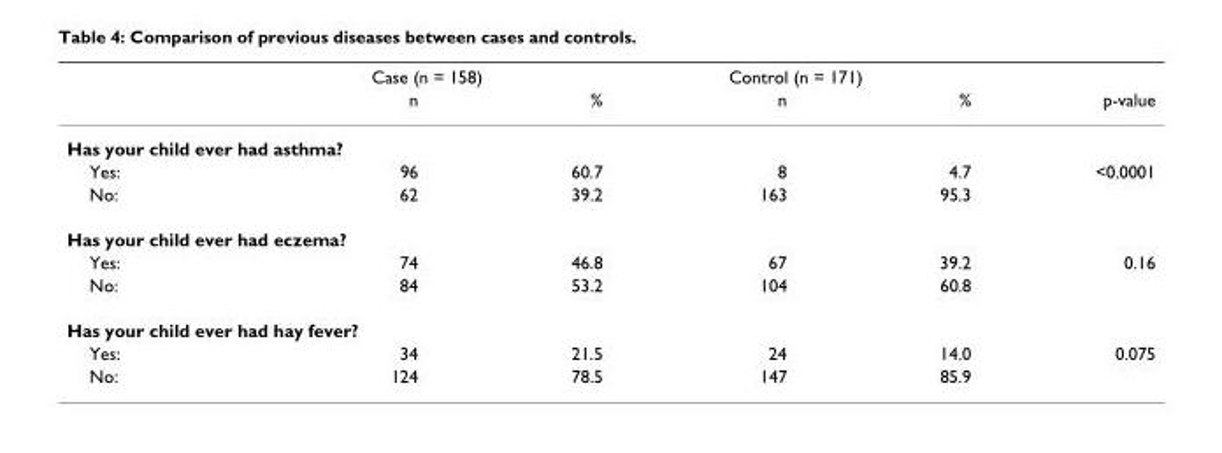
<table><thead><tr><td rowspan="2"></td><td colspan="2">Case (n = 158)</td><td colspan="2">Control (n = 171)</td><td rowspan="2">p-value</td></tr><tr><td>n</td><td>%</td><td>n</td><td>%</td></tr></thead><tbody><tr><td colspan="6">Has your child ever had asthma?</td></tr><tr><td>Yes:</td><td>96</td><td>60.7</td><td>8</td><td>4.7</td><td>&lt;0.0001</td></tr><tr><td>No:</td><td>62</td><td>39.2</td><td>163</td><td>95.3</td><td></td></tr><tr><td colspan="6">Has your child ever had eczema?</td></tr><tr><td>Yes:</td><td>74</td><td>46.8</td><td>67</td><td>39.2</td><td>0.16</td></tr><tr><td>No:</td><td>84</td><td>53.2</td><td>104</td><td>60.8</td><td></td></tr><tr><td colspan="6">Has your child ever had hay fever?</td></tr><tr><td>Yes:</td><td>34</td><td>21.5</td><td>24</td><td>14.0</td><td>0.075</td></tr><tr><td>No:</td><td>124</td><td>78.5</td><td>147</td><td>85.9</td><td></td></tr></tbody></table>